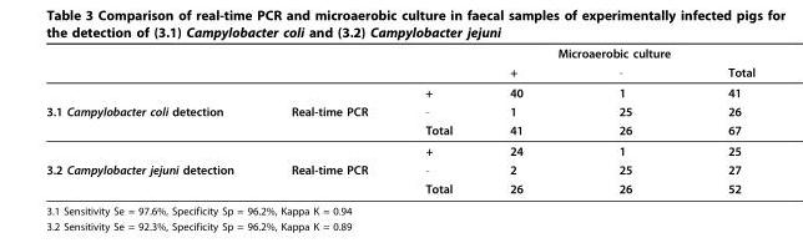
<table><thead><tr><td rowspan="2"></td><td rowspan="2"></td><td rowspan="2"></td><td colspan="2">Microaerobic culture</td><td rowspan="2">Total</td></tr><tr><td>+</td><td>-</td></tr></thead><tbody><tr><td></td><td></td><td>+</td><td>40</td><td>1</td><td>41</td></tr><tr><td rowspan="3">3.1 Campylobacter coli detection</td><td>Real-time PCR</td><td>-</td><td>1</td><td>25</td><td>26</td></tr><tr><td></td><td>Total</td><td>41</td><td>26</td><td>67</td></tr><tr><td></td><td>+</td><td>24</td><td>1</td><td>25</td></tr><tr><td rowspan="2">3.2 Campylobacter jejuni detection</td><td>Real-time PCR</td><td>-</td><td>2</td><td>25</td><td>27</td></tr><tr><td></td><td>Total</td><td>26</td><td>26</td><td>52</td></tr></tbody></table>